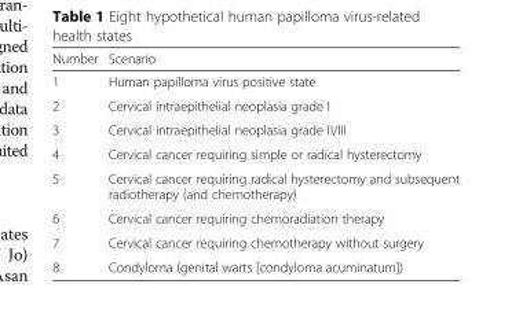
<table><thead><tr><td>Number</td><td>Scenario</td></tr></thead><tbody><tr><td>1</td><td>Human papilloma virus positive state</td></tr><tr><td>2</td><td>Cervical intraepithelial neoplasia grade I</td></tr><tr><td>3</td><td>Cervical intraepithelial neoplasia grade II/III</td></tr><tr><td>4</td><td>Cervical cancer requiring simple or radical hysterectomy</td></tr><tr><td>5</td><td>Cervical cancer requiring radical hysterectomy and subsequent radiotherapy (and chemotherapy)</td></tr><tr><td>6</td><td>Cervical cancer requiring chemoradiation therapy</td></tr><tr><td>7</td><td>Cervical cancer requiring chemotherapy without surgery</td></tr><tr><td>8</td><td>Condyloma (genital warts [condyloma acuminatum])</td></tr></tbody></table>